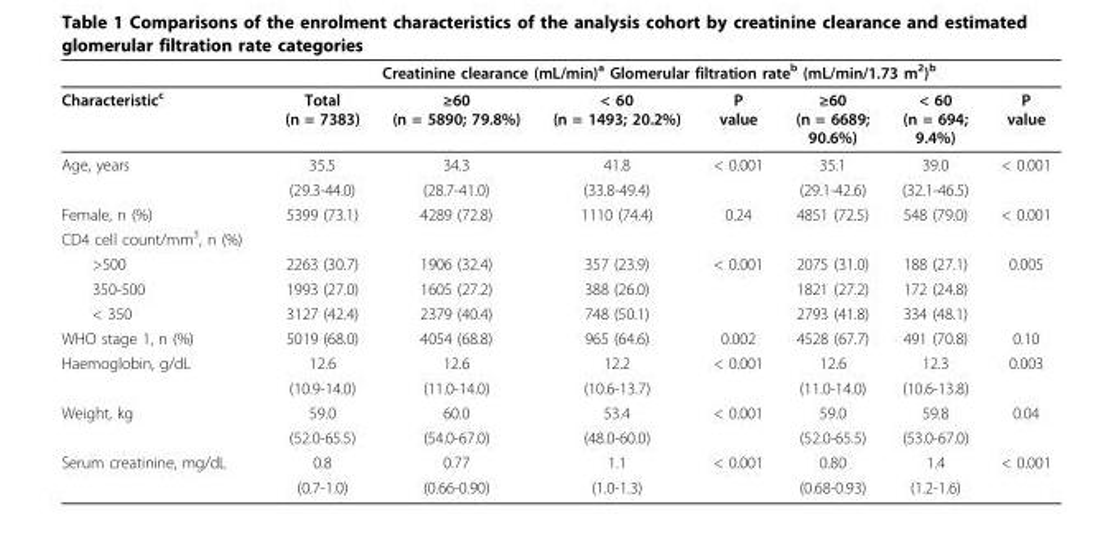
<table><thead><tr><td rowspan="2">Characteristic<sup>c</sup></td><td rowspan="2">Total (n = 7383)</td><td colspan="6">Creatinine clearance (mL/min)<sup>a</sup> Glomerular filtration rate<sup>b</sup> (mL/min/1.73 m<sup>2</sup>)<sup>b</sup></td></tr><tr><td>≥60 (n = 5890; 79.8%)</td><td>&lt; 60 (n = 1493; 20.2%)</td><td>P value</td><td>≥60 (n = 6689; 90.6%)</td><td>&lt; 60 (n = 694; 9.4%)</td><td>P value</td></tr></thead><tbody><tr><td rowspan="2">Age, years</td><td>35.5</td><td>34.3</td><td>41.8</td><td>&lt; 0.001</td><td>35.1</td><td>39.0</td><td>&lt; 0.001</td></tr><tr><td>(29.3-44.0)</td><td>(28.7-41.0)</td><td>(33.8-49.4)</td><td></td><td>(29.1-42.6)</td><td>(32.1-46.5)</td><td></td></tr><tr><td>Female, n (%)</td><td>5399 (73.1)</td><td>4289 (72.8)</td><td>1110 (74.4)</td><td>0.24</td><td>4851 (72.5)</td><td>548 (79.0)</td><td>&lt; 0.001</td></tr><tr><td colspan="8">CD4 cell count/mm<sup>3</sup>, n (%)</td></tr><tr><td>&gt;500</td><td>2263 (30.7)</td><td>1906 (32.4)</td><td>357 (23.9)</td><td>&lt; 0.001</td><td>2075 (31.0)</td><td>188 (27.1)</td><td>0.005</td></tr><tr><td>350-500</td><td>1993 (27.0)</td><td>1605 (27.2)</td><td>388 (26.0)</td><td></td><td>1821 (27.2)</td><td>172 (24.8)</td><td></td></tr><tr><td>&lt; 350</td><td>3127 (42.4)</td><td>2379 (40.4)</td><td>748 (50.1)</td><td></td><td>2793 (41.8)</td><td>334 (48.1)</td><td></td></tr><tr><td>WHO stage 1, n (%)</td><td>5019 (68.0)</td><td>4054 (68.8)</td><td>965 (64.6)</td><td>0.002</td><td>4528 (67.7)</td><td>491 (70.8)</td><td>0.10</td></tr><tr><td rowspan="2">Haemoglobin, g/dL</td><td>12.6</td><td>12.6</td><td>12.2</td><td>&lt; 0.001</td><td>12.6</td><td>12.3</td><td>0.003</td></tr><tr><td>(10.9-14.0)</td><td>(11.0-14.0)</td><td>(10.6-13.7)</td><td></td><td>(11.0-14.0)</td><td>(10.6-13.8)</td><td></td></tr><tr><td rowspan="2">Weight, kg</td><td>59.0</td><td>60.0</td><td>53.4</td><td>&lt; 0.001</td><td>59.0</td><td>59.8</td><td>0.04</td></tr><tr><td>(52.0-65.5)</td><td>(54.0-67.0)</td><td>(48.0-60.0)</td><td></td><td>(52.0-65.5)</td><td>(53.0-67.0)</td><td></td></tr><tr><td rowspan="2">Serum creatinine, mg/dL</td><td>0.8</td><td>0.77</td><td>1.1</td><td>&lt; 0.001</td><td>0.80</td><td>1.4</td><td>&lt; 0.001</td></tr><tr><td>(0.7-1.0)</td><td>(0.66-0.90)</td><td>(1.0-1.3)</td><td></td><td>(0.68-0.93)</td><td>(1.2-1.6)</td><td></td></tr></tbody></table>